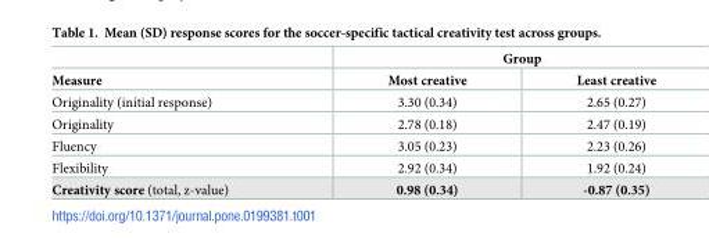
<table><thead><tr><td rowspan="2">Measure</td><td colspan="2">Group</td></tr><tr><td>Most creative</td><td>Least creative</td></tr></thead><tbody><tr><td>Originality (initial response)</td><td>3.30 (0.34)</td><td>2.65 (0.27)</td></tr><tr><td>Originality</td><td>2.78 (0.18)</td><td>2.47 (0.19)</td></tr><tr><td>Fluency</td><td>3.05 (0.23)</td><td>2.23 (0.26)</td></tr><tr><td>Flexibility</td><td>2.92 (0.34)</td><td>1.92 (0.24)</td></tr><tr><td>Creativity score (total, z-value)</td><td>0.98 (0.34)</td><td>-0.87 (0.35)</td></tr></tbody></table>